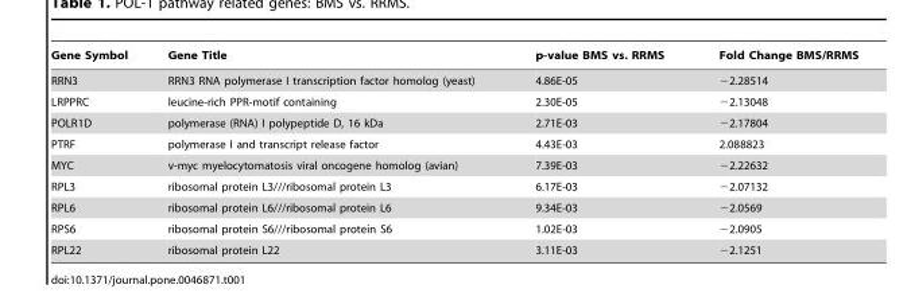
<table><thead><tr><td>Gene Symbol</td><td>Gene Title</td><td>p-value BMS vs. RRMS</td><td>Fold Change BMS/RRMS</td></tr></thead><tbody><tr><td>RRN3</td><td>RRN3 RNA polymerase I transcription factor homolog (yeast)</td><td>4.86E-05</td><td>−2.28514</td></tr><tr><td>LRPPRC</td><td>leucine-rich PPR-motif containing</td><td>2.30E-05</td><td>−2.13048</td></tr><tr><td>POLR1D</td><td>polymerase (RNA) I polypeptide D, 16 kDa</td><td>2.71E-03</td><td>−2.17804</td></tr><tr><td>PTRF</td><td>polymerase I and transcript release factor</td><td>4.43E-03</td><td>2.088823</td></tr><tr><td>MYC</td><td>v-myc myelocytomatosis viral oncogene homolog (avian)</td><td>7.39E-03</td><td>−2.22632</td></tr><tr><td>RPL3</td><td>ribosomal protein L3///ribosomal protein L3</td><td>6.17E-03</td><td>−2.07132</td></tr><tr><td>RPL6</td><td>ribosomal protein L6///ribosomal protein L6</td><td>9.34E-03</td><td>−2.0569</td></tr><tr><td>RPS6</td><td>ribosomal protein S6///ribosomal protein S6</td><td>1.02E-03</td><td>−2.0905</td></tr><tr><td>RPL22</td><td>ribosomal protein L22</td><td>3.11E-03</td><td>−2.1251</td></tr></tbody></table>